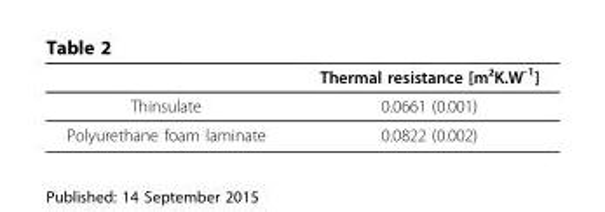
<table><thead><tr><td></td><td>Thermal resistance [m²K.W<sup>-1</sup>]</td></tr></thead><tbody><tr><td>Thinsulate</td><td>0.0661 (0.001)</td></tr><tr><td>Polyurethane foam laminate</td><td>0.0822 (0.002)</td></tr></tbody></table>